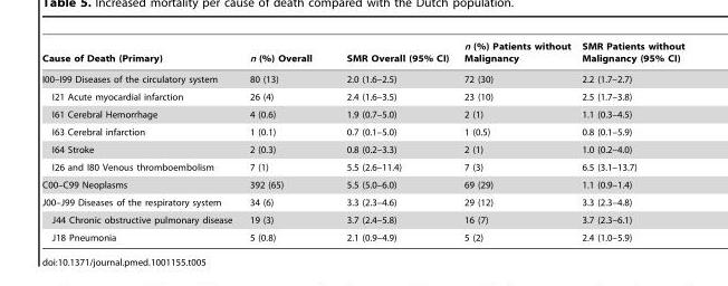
<table><thead><tr><td>Cause of Death (Primary)</td><td>n (%) Overall</td><td>SMR Overall (95% CI)</td><td>n (%) Patients without Malignancy</td><td>SMR Patients without Malignancy (95% CI)</td></tr></thead><tbody><tr><td>I00–I99 Diseases of the circulatory system</td><td>80 (13)</td><td>2.0 (1.6–2.5)</td><td>72 (30)</td><td>2.2 (1.7–2.7)</td></tr><tr><td>I21 Acute myocardial infarction</td><td>26 (4)</td><td>2.4 (1.6–3.5)</td><td>23 (10)</td><td>2.5 (1.7–3.8)</td></tr><tr><td>I61 Cerebral Hemorrhage</td><td>4 (0.6)</td><td>1.9 (0.7–5.0)</td><td>2 (1)</td><td>1.1 (0.3–4.5)</td></tr><tr><td>I63 Cerebral infarction</td><td>1 (0.1)</td><td>0.7 (0.1–5.0)</td><td>1 (0.5)</td><td>0.8 (0.1–5.9)</td></tr><tr><td>I64 Stroke</td><td>2 (0.3)</td><td>0.8 (0.2–3.3)</td><td>2 (1)</td><td>1.0 (0.2–4.0)</td></tr><tr><td>I26 and I80 Venous thromboembolism</td><td>7 (1)</td><td>5.5 (2.6–11.4)</td><td>7 (3)</td><td>6.5 (3.1–13.7)</td></tr><tr><td>C00–C99 Neoplasms</td><td>392 (65)</td><td>5.5 (5.0–6.0)</td><td>69 (29)</td><td>1.1 (0.9–1.4)</td></tr><tr><td>J00–J99 Diseases of the respiratory system</td><td>34 (6)</td><td>3.3 (2.3–4.6)</td><td>29 (12)</td><td>3.3 (2.3–4.8)</td></tr><tr><td>J44 Chronic obstructive pulmonary disease</td><td>19 (3)</td><td>3.7 (2.4–5.8)</td><td>16 (7)</td><td>3.7 (2.3–6.1)</td></tr><tr><td>J18 Pneumonia</td><td>5 (0.8)</td><td>2.1 (0.9–4.9)</td><td>5 (2)</td><td>2.4 (1.0–5.9)</td></tr></tbody></table>